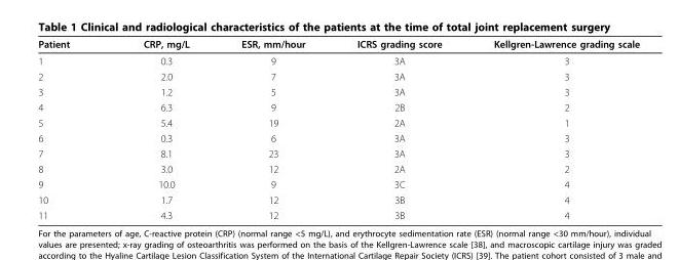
<table><thead><tr><td>Patient</td><td>CRP, mg/L</td><td>ESR, mm/hour</td><td>ICRS grading score</td><td>Kellgren-Lawrence grading scale</td></tr></thead><tbody><tr><td>1</td><td>0.3</td><td>9</td><td>3A</td><td>3</td></tr><tr><td>2</td><td>2.0</td><td>7</td><td>3A</td><td>3</td></tr><tr><td>3</td><td>1.2</td><td>5</td><td>3A</td><td>3</td></tr><tr><td>4</td><td>6.3</td><td>9</td><td>2B</td><td>2</td></tr><tr><td>5</td><td>5.4</td><td>19</td><td>2A</td><td>1</td></tr><tr><td>6</td><td>0.3</td><td>6</td><td>3A</td><td>3</td></tr><tr><td>7</td><td>8.1</td><td>23</td><td>3A</td><td>3</td></tr><tr><td>8</td><td>3.0</td><td>12</td><td>2A</td><td>2</td></tr><tr><td>9</td><td>10.0</td><td>9</td><td>3C</td><td>4</td></tr><tr><td>10</td><td>1.7</td><td>12</td><td>3B</td><td>4</td></tr><tr><td>11</td><td>4.3</td><td>12</td><td>3B</td><td>4</td></tr></tbody></table>